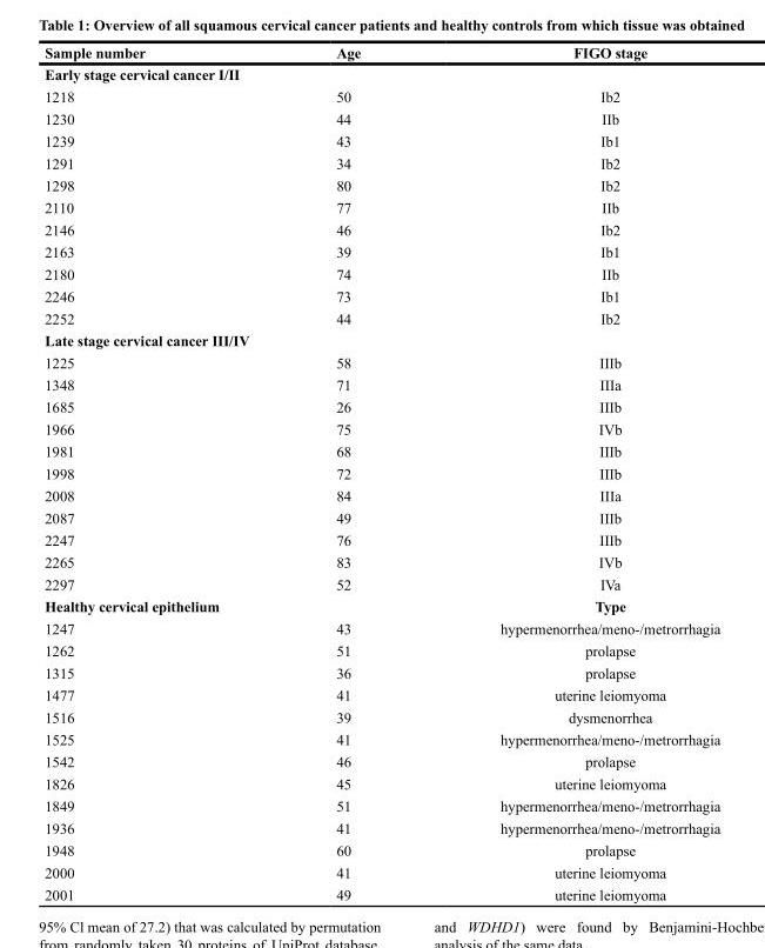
<table><thead><tr><td>Sample number</td><td>Age</td><td>FIGO stage</td></tr></thead><tbody><tr><td colspan="3">Early stage cervical cancer I/II</td></tr><tr><td>1218</td><td>50</td><td>Ib2</td></tr><tr><td>1230</td><td>44</td><td>IIb</td></tr><tr><td>1239</td><td>43</td><td>Ib1</td></tr><tr><td>1291</td><td>34</td><td>Ib2</td></tr><tr><td>1298</td><td>80</td><td>Ib2</td></tr><tr><td>2110</td><td>77</td><td>IIb</td></tr><tr><td>2146</td><td>46</td><td>Ib2</td></tr><tr><td>2163</td><td>39</td><td>Ib1</td></tr><tr><td>2180</td><td>74</td><td>IIb</td></tr><tr><td>2246</td><td>73</td><td>Ib1</td></tr><tr><td>2252</td><td>44</td><td>Ib2</td></tr><tr><td colspan="3">Late stage cervical cancer III/IV</td></tr><tr><td>1225</td><td>58</td><td>IIIb</td></tr><tr><td>1348</td><td>71</td><td>IIIa</td></tr><tr><td>1685</td><td>26</td><td>IIIb</td></tr><tr><td>1966</td><td>75</td><td>IVb</td></tr><tr><td>1981</td><td>68</td><td>IIIb</td></tr><tr><td>1998</td><td>72</td><td>IIIb</td></tr><tr><td>2008</td><td>84</td><td>IIIa</td></tr><tr><td>2087</td><td>49</td><td>IIIb</td></tr><tr><td>2247</td><td>76</td><td>IIIb</td></tr><tr><td>2265</td><td>83</td><td>IVb</td></tr><tr><td>2297</td><td>52</td><td>IVa</td></tr><tr><td>Healthy cervical epithelium</td><td></td><td>Type</td></tr><tr><td>1247</td><td>43</td><td>hypermenorrhea/meno-/metrorrhagia</td></tr><tr><td>1262</td><td>51</td><td>prolapse</td></tr><tr><td>1315</td><td>36</td><td>prolapse</td></tr><tr><td>1477</td><td>41</td><td>uterine leiomyoma</td></tr><tr><td>1516</td><td>39</td><td>dysmenorrhea</td></tr><tr><td>1525</td><td>41</td><td>hypermenorrhea/meno-/metrorrhagia</td></tr><tr><td>1542</td><td>46</td><td>prolapse</td></tr><tr><td>1826</td><td>45</td><td>uterine leiomyoma</td></tr><tr><td>1849</td><td>51</td><td>hypermenorrhea/meno-/metrorrhagia</td></tr><tr><td>1936</td><td>41</td><td>hypermenorrhea/meno-/metrorrhagia</td></tr><tr><td>1948</td><td>60</td><td>prolapse</td></tr><tr><td>2000</td><td>41</td><td>uterine leiomyoma</td></tr><tr><td>2001</td><td>49</td><td>uterine leiomyoma</td></tr></tbody></table>